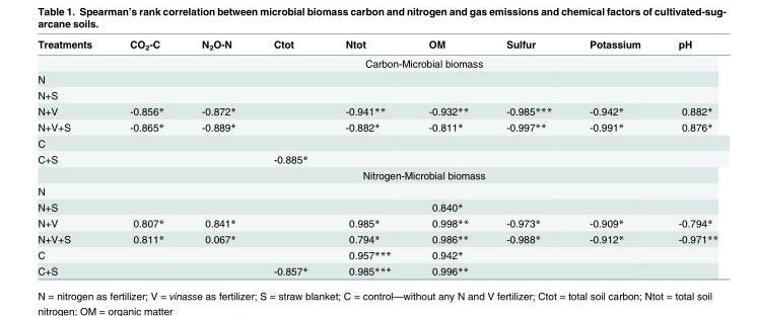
<table><thead><tr><td>Treatments</td><td>CO<sub>2</sub>-C</td><td>N<sub>2</sub>O-N</td><td>Ctot</td><td>Ntot</td><td>OM</td><td>Sulfur</td><td>Potassium</td><td>pH</td></tr></thead><tbody><tr><td></td><td colspan="8">Carbon-Microbial biomass</td></tr><tr><td colspan="9">N</td></tr><tr><td colspan="9">N+S</td></tr><tr><td>N+V</td><td>-0.856*</td><td>-0.872*</td><td></td><td>-0.941**</td><td>-0.932**</td><td>-0.985***</td><td>-0.942*</td><td>0.882*</td></tr><tr><td>N+V+S</td><td>-0.865*</td><td>-0.889*</td><td></td><td>-0.882*</td><td>-0.811*</td><td>-0.997**</td><td>-0.991*</td><td>0.876*</td></tr><tr><td colspan="9">C</td></tr><tr><td rowspan="2">C+S</td><td></td><td></td><td>-0.885*</td><td></td><td></td><td></td><td colspan="2"></td></tr><tr><td colspan="8">Nitrogen-Microbial biomass</td></tr><tr><td colspan="9">N</td></tr><tr><td>N+S</td><td></td><td></td><td></td><td></td><td>0.840*</td><td colspan="2"></td><td></td></tr><tr><td>N+V</td><td>0.807*</td><td>0.841*</td><td></td><td>0.985*</td><td>0.998**</td><td>-0.973*</td><td>-0.909*</td><td>-0.794*</td></tr><tr><td>N+V+S</td><td>0.811*</td><td>0.067*</td><td></td><td>0.794*</td><td>0.986**</td><td>-0.988*</td><td>-0.912*</td><td>-0.971**</td></tr><tr><td>C</td><td></td><td></td><td></td><td>0.957***</td><td>0.942*</td><td colspan="2"></td><td></td></tr><tr><td>C+S</td><td></td><td></td><td>-0.857*</td><td>0.985***</td><td>0.996**</td><td colspan="2"></td><td></td></tr></tbody></table>